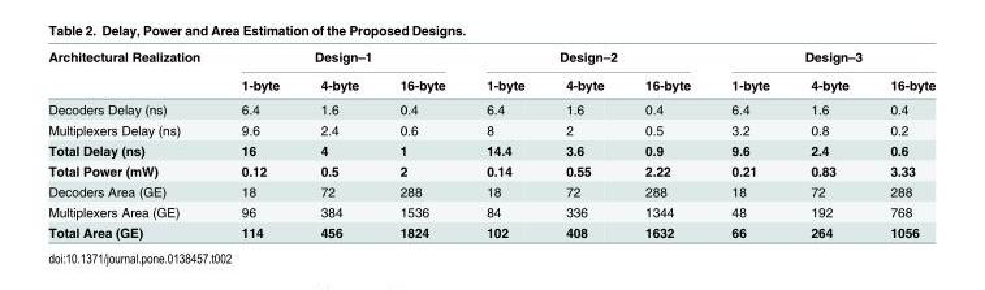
<table><thead><tr><td rowspan="2">Architectural Realization</td><td colspan="3">Design–1</td><td colspan="3">Design–2</td><td colspan="3">Design–3</td></tr><tr><td>1-byte</td><td>4-byte</td><td>16-byte</td><td>1-byte</td><td>4-byte</td><td>16-byte</td><td>1-byte</td><td>4-byte</td><td>16-byte</td></tr></thead><tbody><tr><td>Decoders Delay (ns)</td><td>6.4</td><td>1.6</td><td>0.4</td><td>6.4</td><td>1.6</td><td>0.4</td><td>6.4</td><td>1.6</td><td>0.4</td></tr><tr><td>Multiplexers Delay (ns)</td><td>9.6</td><td>2.4</td><td>0.6</td><td>8</td><td>2</td><td>0.5</td><td>3.2</td><td>0.8</td><td>0.2</td></tr><tr><td>Total Delay (ns)</td><td>16</td><td>4</td><td>1</td><td>14.4</td><td>3.6</td><td>0.9</td><td>9.6</td><td>2.4</td><td>0.6</td></tr><tr><td>Total Power (mW)</td><td>0.12</td><td>0.5</td><td>2</td><td>0.14</td><td>0.55</td><td>2.22</td><td>0.21</td><td>0.83</td><td>3.33</td></tr><tr><td>Decoders Area (GE)</td><td>18</td><td>72</td><td>288</td><td>18</td><td>72</td><td>288</td><td>18</td><td>72</td><td>288</td></tr><tr><td>Multiplexers Area (GE)</td><td>96</td><td>384</td><td>1536</td><td>84</td><td>336</td><td>1344</td><td>48</td><td>192</td><td>768</td></tr><tr><td>Total Area (GE)</td><td>114</td><td>456</td><td>1824</td><td>102</td><td>408</td><td>1632</td><td>66</td><td>264</td><td>1056</td></tr></tbody></table>